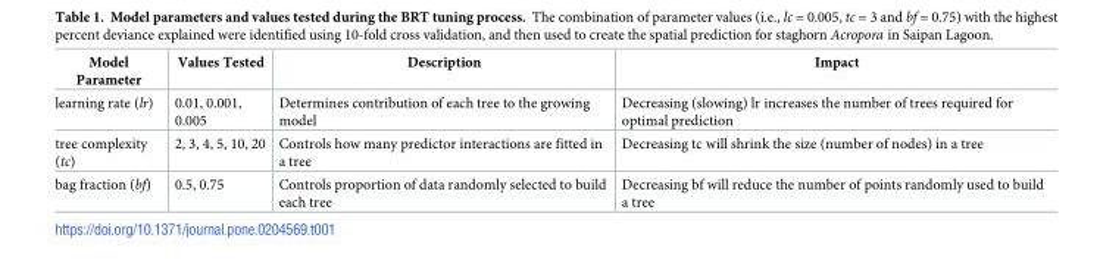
<table><thead><tr><td>Model Parameter</td><td>Values Tested</td><td>Description</td><td>Impact</td></tr></thead><tbody><tr><td>learning rate (lr)</td><td>0.01, 0.001, 0.005</td><td>Determines contribution of each tree to the growing model</td><td>Decreasing (slowing) lr increases the number of trees required for optimal prediction</td></tr><tr><td>tree complexity (tc)</td><td>2, 3, 4, 5, 10, 20</td><td>Controls how many predictor interactions are fitted in a tree</td><td>Decreasing tc will shrink the size (number of nodes) in a tree</td></tr><tr><td>bag fraction (bf)</td><td>0.5, 0.75</td><td>Controls proportion of data randomly selected to build each tree</td><td>Decreasing bf will reduce the number of points randomly used to build a tree</td></tr></tbody></table>